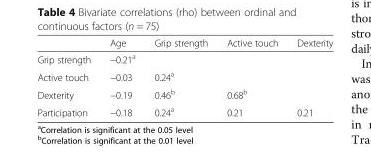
<table><thead><tr><td></td><td>Age</td><td>Grip strength</td><td>Active touch</td><td>Dexterity</td></tr></thead><tbody><tr><td>Grip strength</td><td>−0.21<sup>a</sup></td><td></td><td></td><td></td></tr><tr><td>Active touch</td><td>−0.03</td><td>0.24<sup>a</sup></td><td></td><td></td></tr><tr><td>Dexterity</td><td>−0.19</td><td>0.46<sup>b</sup></td><td>0.68<sup>b</sup></td><td></td></tr><tr><td>Participation</td><td>−0.18</td><td>0.24<sup>a</sup></td><td>0.21</td><td>0.21</td></tr></tbody></table>